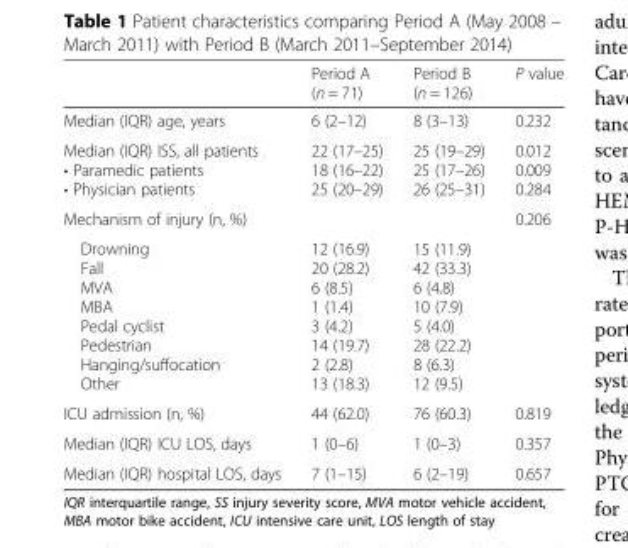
<table><thead><tr><td></td><td>Period A (n = 71)</td><td>Period B (n = 126)</td><td>P value</td></tr></thead><tbody><tr><td>Median (IQR) age, years</td><td>6 (2–12)</td><td>8 (3–13)</td><td>0.232</td></tr><tr><td>Median (IQR) ISS, all patients • Paramedic patients • Physician patients</td><td>22 (17–25) 18 (16–22) 25 (20–29)</td><td>25 (19–29) 25 (17–26) 26 (25–31)</td><td>0.012 0.009 0.284</td></tr><tr><td colspan="3">Mechanism of injury (n, %)</td><td rowspan="2">0.206</td></tr><tr><td>Drowning Fall MVA MBA Pedal cyclist Pedestrian Hanging/suffocation Other</td><td>12 (16.9) 20 (28.2) 6 (8.5) 1 (1.4) 3 (4.2) 14 (19.7) 2 (2.8) 13 (18.3)</td><td>15 (11.9) 42 (33.3) 6 (4.8) 10 (7.9) 5 (4.0) 28 (22.2) 8 (6.3) 12 (9.5)</td></tr><tr><td>ICU admission (n, %)</td><td>44 (62.0)</td><td>76 (60.3)</td><td>0.819</td></tr><tr><td>Median (IQR) ICU LOS, days</td><td>1 (0–6)</td><td>1 (0–3)</td><td>0.357</td></tr><tr><td>Median (IQR) hospital LOS, days</td><td>7 (1–15)</td><td>6 (2–19)</td><td>0.657</td></tr></tbody></table>